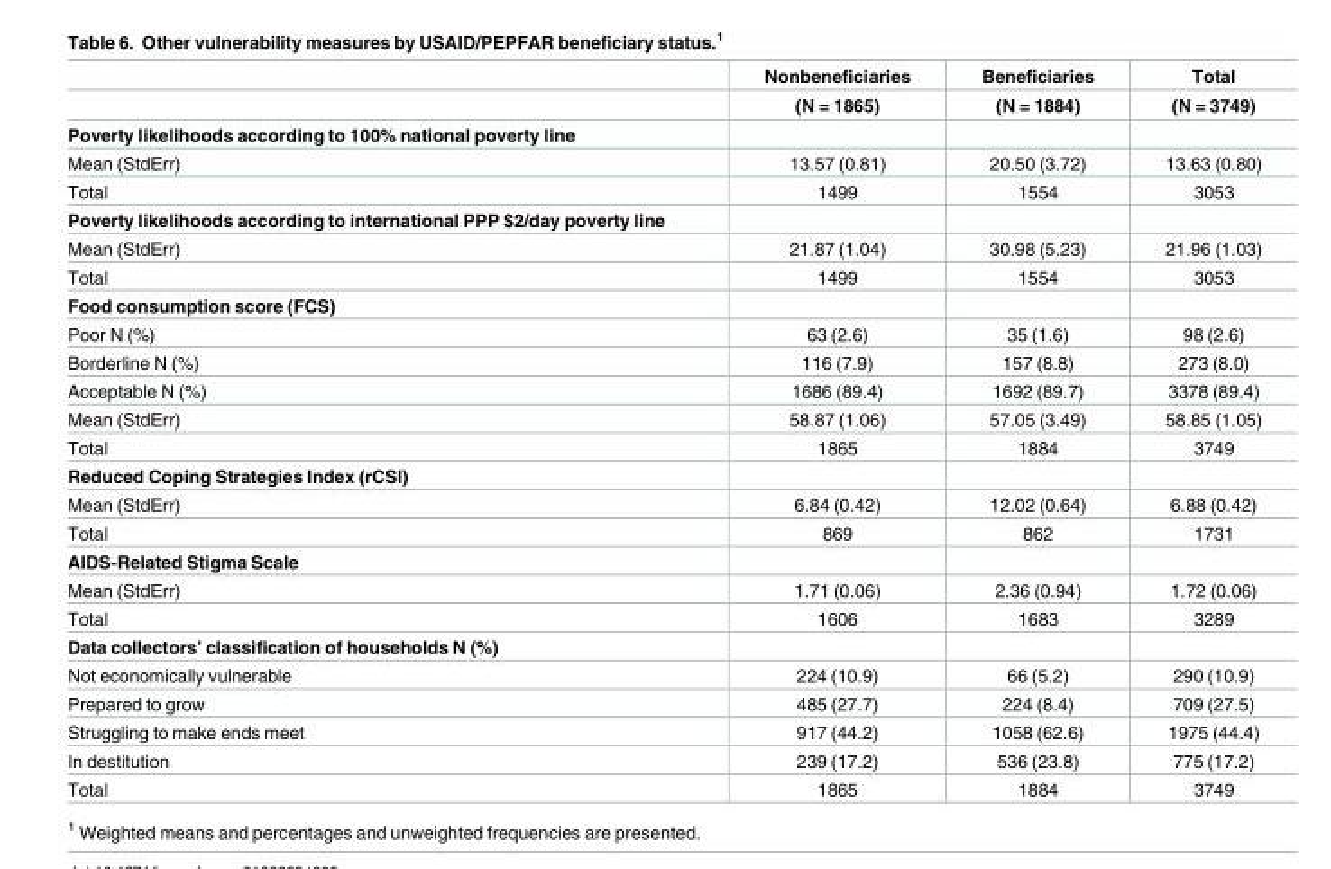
<table><thead><tr><td rowspan="2"></td><td rowspan="2">Nonbeneficiaries (N = 1865)</td><td rowspan="2">Beneficiaries (N = 1884)</td><td rowspan="2">Total (N = 3749)</td></tr><tr></tr></thead><tbody><tr><td colspan="4">Poverty likelihoods according to 100% national poverty line</td></tr><tr><td>Mean (StdErr)</td><td>13.57 (0.81)</td><td>20.50 (3.72)</td><td>13.63 (0.80)</td></tr><tr><td>Total</td><td>1499</td><td>1554</td><td>3053</td></tr><tr><td colspan="4">Poverty likelihoods according to international PPP $2/day poverty line</td></tr><tr><td>Mean (StdErr)</td><td>21.87 (1.04)</td><td>30.98 (5.23)</td><td>21.96 (1.03)</td></tr><tr><td>Total</td><td>1499</td><td>1554</td><td>3053</td></tr><tr><td colspan="4">Food consumption score (FCS)</td></tr><tr><td>Poor N (%)</td><td>63 (2.6)</td><td>35 (1.6)</td><td>98 (2.6)</td></tr><tr><td>Borderline N (%)</td><td>116 (7.9)</td><td>157 (8.8)</td><td>273 (8.0)</td></tr><tr><td>Acceptable N (%)</td><td>1686 (89.4)</td><td>1692 (89.7)</td><td>3378 (89.4)</td></tr><tr><td>Mean (StdErr)</td><td>58.87 (1.06)</td><td>57.05 (3.49)</td><td>58.85 (1.05)</td></tr><tr><td>Total</td><td>1865</td><td>1884</td><td>3749</td></tr><tr><td colspan="4">Reduced Coping Strategies Index (rCSI)</td></tr><tr><td>Mean (StdErr)</td><td>6.84 (0.42)</td><td>12.02 (0.64)</td><td>6.88 (0.42)</td></tr><tr><td>Total</td><td>869</td><td>862</td><td>1731</td></tr><tr><td colspan="4">AIDS-Related Stigma Scale</td></tr><tr><td>Mean (StdErr)</td><td>1.71 (0.06)</td><td>2.36 (0.94)</td><td>1.72 (0.06)</td></tr><tr><td>Total</td><td>1606</td><td>1683</td><td>3289</td></tr><tr><td colspan="4">Data collectors’ classification of households N (%)</td></tr><tr><td>Not economically vulnerable</td><td>224 (10.9)</td><td>66 (5.2)</td><td>290 (10.9)</td></tr><tr><td>Prepared to grow</td><td>485 (27.7)</td><td>224 (8.4)</td><td>709 (27.5)</td></tr><tr><td>Struggling to make ends meet</td><td>917 (44.2)</td><td>1058 (62.6)</td><td>1975 (44.4)</td></tr><tr><td>In destitution</td><td>239 (17.2)</td><td>536 (23.8)</td><td>775 (17.2)</td></tr><tr><td>Total</td><td>1865</td><td>1884</td><td>3749</td></tr></tbody></table>